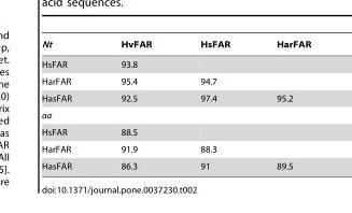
<table><thead><tr><td>Nt</td><td>HvFAR</td><td>HsFAR</td><td>HarFAR</td></tr></thead><tbody><tr><td>HsFAR</td><td>93.8</td><td></td><td></td></tr><tr><td>HarFAR</td><td>95.4</td><td>94.7</td><td></td></tr><tr><td>HasFAR</td><td>92.5</td><td>97.4</td><td>95.2</td></tr><tr><td colspan="4">aa</td></tr><tr><td>HsFAR</td><td>88.5</td><td></td><td></td></tr><tr><td>HarFAR</td><td>91.9</td><td>88.3</td><td></td></tr><tr><td>HasFAR</td><td>86.3</td><td>91</td><td>89.5</td></tr></tbody></table>